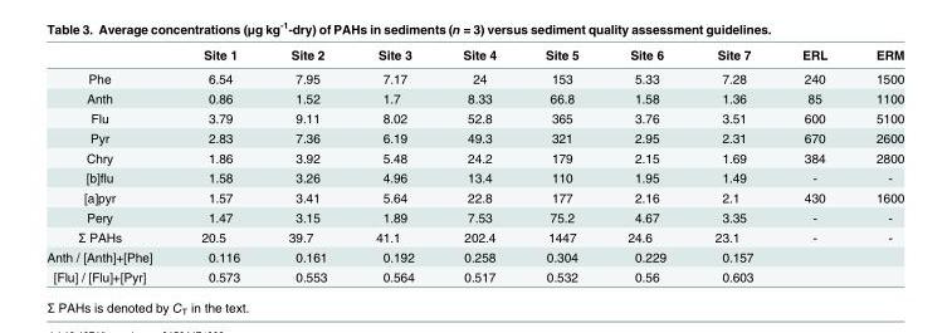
<table><thead><tr><td></td><td>Site 1</td><td>Site 2</td><td>Site 3</td><td>Site 4</td><td>Site 5</td><td>Site 6</td><td>Site 7</td><td>ERL</td><td>ERM</td></tr></thead><tbody><tr><td>Phe</td><td>6.54</td><td>7.95</td><td>7.17</td><td>24</td><td>153</td><td>5.33</td><td>7.28</td><td>240</td><td>1500</td></tr><tr><td>Anth</td><td>0.86</td><td>1.52</td><td>1.7</td><td>8.33</td><td>66.8</td><td>1.58</td><td>1.36</td><td>85</td><td>1100</td></tr><tr><td>Flu</td><td>3.79</td><td>9.11</td><td>8.02</td><td>52.8</td><td>365</td><td>3.76</td><td>3.51</td><td>600</td><td>5100</td></tr><tr><td>Pyr</td><td>2.83</td><td>7.36</td><td>6.19</td><td>49.3</td><td>321</td><td>2.95</td><td>2.31</td><td>670</td><td>2600</td></tr><tr><td>Chry</td><td>1.86</td><td>3.92</td><td>5.48</td><td>24.2</td><td>179</td><td>2.15</td><td>1.69</td><td>384</td><td>2800</td></tr><tr><td>[b]flu</td><td>1.58</td><td>3.26</td><td>4.96</td><td>13.4</td><td>110</td><td>1.95</td><td>1.49</td><td>-</td><td>-</td></tr><tr><td>[a]pyr</td><td>1.57</td><td>3.41</td><td>5.64</td><td>22.8</td><td>177</td><td>2.16</td><td>2.1</td><td>430</td><td>1600</td></tr><tr><td>Pery</td><td>1.47</td><td>3.15</td><td>1.89</td><td>7.53</td><td>75.2</td><td>4.67</td><td>3.35</td><td>-</td><td>-</td></tr><tr><td>Σ PAHs</td><td>20.5</td><td>39.7</td><td>41.1</td><td>202.4</td><td>1447</td><td>24.6</td><td>23.1</td><td>-</td><td>-</td></tr><tr><td>Anth / [Anth]+[Phe]</td><td>0.116</td><td>0.161</td><td>0.192</td><td>0.258</td><td>0.304</td><td>0.229</td><td>0.157</td><td></td><td></td></tr><tr><td>[Flu] / [Flu]+[Pyr]</td><td>0.573</td><td>0.553</td><td>0.564</td><td>0.517</td><td>0.532</td><td>0.56</td><td>0.603</td><td></td><td></td></tr></tbody></table>